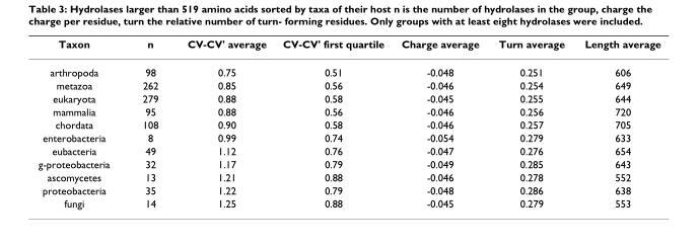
<table><thead><tr><td>Taxon</td><td>n</td><td>CV-CV&#x27; average</td><td>CV-CV&#x27; first quartile</td><td>Charge average</td><td>Turn average</td><td>Length average</td></tr></thead><tbody><tr><td>arthropoda</td><td>98</td><td>0.75</td><td>0.51</td><td>-0.048</td><td>0.251</td><td>606</td></tr><tr><td>metazoa</td><td>262</td><td>0.85</td><td>0.56</td><td>-0.046</td><td>0.254</td><td>649</td></tr><tr><td>eukaryota</td><td>279</td><td>0.88</td><td>0.58</td><td>-0.045</td><td>0.255</td><td>644</td></tr><tr><td>mammalia</td><td>95</td><td>0.88</td><td>0.56</td><td>-0.046</td><td>0.256</td><td>720</td></tr><tr><td>chordata</td><td>108</td><td>0.90</td><td>0.58</td><td>-0.046</td><td>0.257</td><td>705</td></tr><tr><td>enterobacteria</td><td>8</td><td>0.99</td><td>0.74</td><td>-0.054</td><td>0.279</td><td>633</td></tr><tr><td>eubacteria</td><td>49</td><td>1.12</td><td>0.76</td><td>-0.047</td><td>0.276</td><td>654</td></tr><tr><td>g-proteobacteria</td><td>32</td><td>1.17</td><td>0.79</td><td>-0.049</td><td>0.285</td><td>643</td></tr><tr><td>ascomycetes</td><td>13</td><td>1.21</td><td>0.88</td><td>-0.046</td><td>0.278</td><td>552</td></tr><tr><td>proteobacteria</td><td>35</td><td>1.22</td><td>0.79</td><td>-0.048</td><td>0.286</td><td>638</td></tr><tr><td>fungi</td><td>14</td><td>1.25</td><td>0.88</td><td>-0.045</td><td>0.279</td><td>553</td></tr></tbody></table>